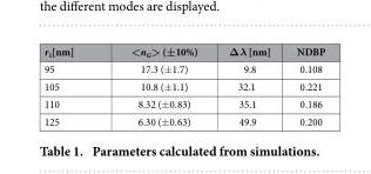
<table><thead><tr><td>r<sub>1</sub>[nm]</td><td>&lt;n<sub>G</sub>&gt; (±10%)</td><td>Δλ [nm]</td><td>NDBP</td></tr></thead><tbody><tr><td>95</td><td>17.3 (± 1.7)</td><td>9.8</td><td>0.108</td></tr><tr><td>105</td><td>10.8 (± 1.1)</td><td>32.1</td><td>0.221</td></tr><tr><td>110</td><td>8.32 (± 0.83)</td><td>35.1</td><td>0.186</td></tr><tr><td>125</td><td>6.30 (± 0.63)</td><td>49.9</td><td>0.200</td></tr></tbody></table>